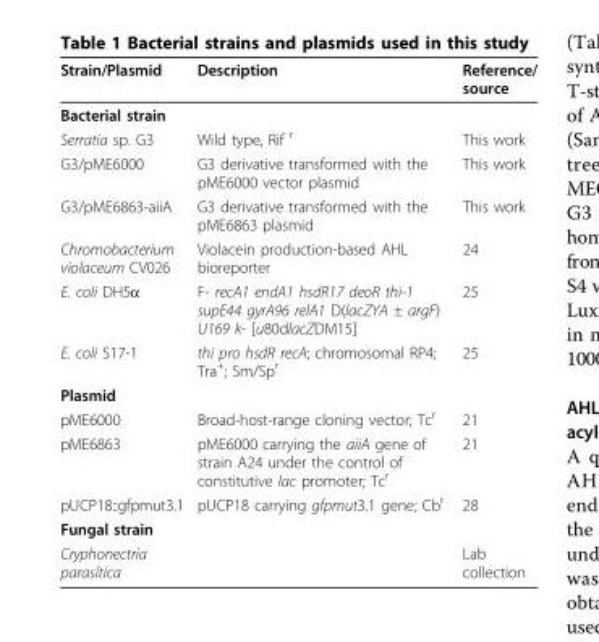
<table><thead><tr><td>Strain/Plasmid</td><td>Description</td><td>Reference/ source</td></tr></thead><tbody><tr><td colspan="3">Bacterial strain</td></tr><tr><td>Serratia sp. G3</td><td>Wild type, Rif <sup>r</sup></td><td>This work</td></tr><tr><td>G3/pME6000</td><td>G3 derivative transformed with the pME6000 vector plasmid</td><td>This work</td></tr><tr><td>G3/pME6863-aiiA</td><td>G3 derivative transformed with the pME6863 plasmid</td><td>This work</td></tr><tr><td>Chromobacterium violaceum CV026</td><td>Violacein production-based AHL bioreporter</td><td>24</td></tr><tr><td>E. coli DH5α</td><td>F- recA1 endA1 hsdR17 deoR thi-1 supE44 gyrA96 relA1 D(lacZYA ± argF) U169 k- [u80dlacZDM15]</td><td>25</td></tr><tr><td>E. coli S17-1</td><td>thi pro hsdR recA; chromosomal RP4; Tra<sup>+</sup>; Sm/Sp<sup>r</sup></td><td>25</td></tr><tr><td colspan="3">Plasmid</td></tr><tr><td>pME6000</td><td>Broad-host-range cloning vector; Tc<sup>r</sup></td><td>21</td></tr><tr><td>pME6863</td><td>pME6000 carrying the aiiA gene of strain A24 under the control of constitutive lac promoter; Tc<sup>r</sup></td><td>21</td></tr><tr><td>pUCP18::gfpmut3.1</td><td>pUCP18 carrying gfpmut3.1 gene; Cb<sup>r</sup></td><td>28</td></tr><tr><td colspan="3">Fungal strain</td></tr><tr><td>Cryphonectria parasítica</td><td></td><td>Lab collection</td></tr></tbody></table>